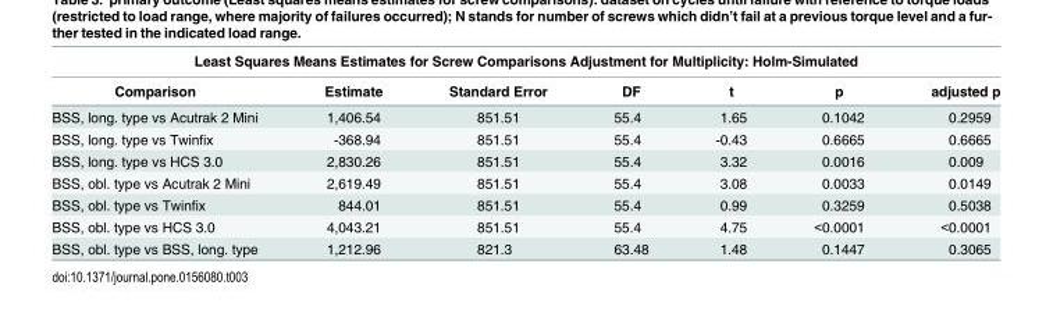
<table><thead><tr><td colspan="7">Least Squares Means Estimates for Screw Comparisons Adjustment for Multiplicity: Holm-Simulated</td></tr><tr><td>Comparison</td><td>Estimate</td><td>Standard Error</td><td>DF</td><td>t</td><td>p</td><td>adjusted p</td></tr></thead><tbody><tr><td>BSS, long. type vs Acutrak 2 Mini</td><td>1,406.54</td><td>851.51</td><td>55.4</td><td>1.65</td><td>0.1042</td><td>0.2959</td></tr><tr><td>BSS, long. type vs Twinfix</td><td>-368.94</td><td>851.51</td><td>55.4</td><td>-0.43</td><td>0.6665</td><td>0.6665</td></tr><tr><td>BSS, long. type vs HCS 3.0</td><td>2,830.26</td><td>851.51</td><td>55.4</td><td>3.32</td><td>0.0016</td><td>0.009</td></tr><tr><td>BSS, obl. type vs Acutrak 2 Mini</td><td>2,619.49</td><td>851.51</td><td>55.4</td><td>3.08</td><td>0.0033</td><td>0.0149</td></tr><tr><td>BSS, obl. type vs Twinfix</td><td>844.01</td><td>851.51</td><td>55.4</td><td>0.99</td><td>0.3259</td><td>0.5038</td></tr><tr><td>BSS, obl. type vs HCS 3.0</td><td>4,043.21</td><td>851.51</td><td>55.4</td><td>4.75</td><td>&lt;0.0001</td><td>&lt;0.0001</td></tr><tr><td>BSS, obl. type vs BSS, long. type</td><td>1,212.96</td><td>821.3</td><td>63.48</td><td>1.48</td><td>0.1447</td><td>0.3065</td></tr></tbody></table>